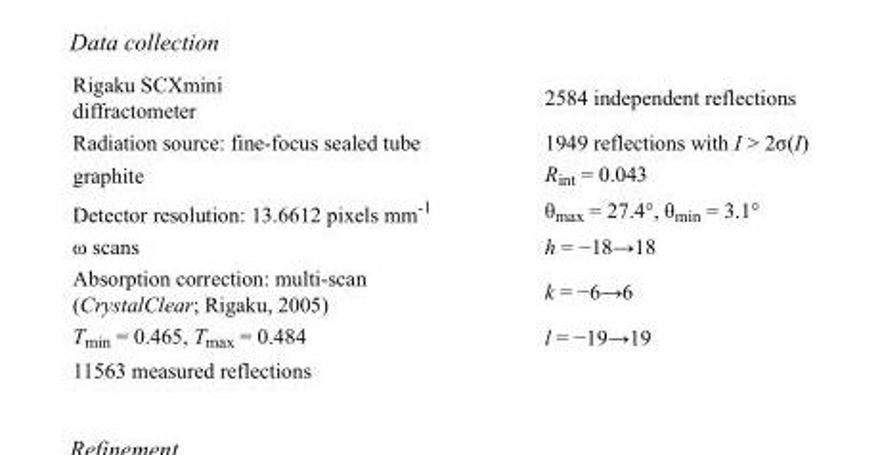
<table><tbody><tr><td>Rigaku SCXmini diffractometer</td><td>2584 independent reflections</td></tr><tr><td>Radiation source: fine-focus sealed tube</td><td>1949 reflections with I &gt; 2σ(I)</td></tr><tr><td>graphite</td><td>R<sub>int</sub> = 0.043</td></tr><tr><td>Detector resolution: 13.6612 pixels mm<sup>-1</sup></td><td>θ<sub>max</sub> = 27.4°, θ<sub>min</sub> = 3.1°</td></tr><tr><td>ω scans</td><td>h = −18→18</td></tr><tr><td>Absorption correction: multi-scan (CrystalClear; Rigaku, 2005)</td><td>k = −6→6</td></tr><tr><td>T<sub>min</sub> = 0.465, T<sub>max</sub> = 0.484</td><td>l = −19→19</td></tr><tr><td>11563 measured reflections</td><td></td></tr></tbody></table>